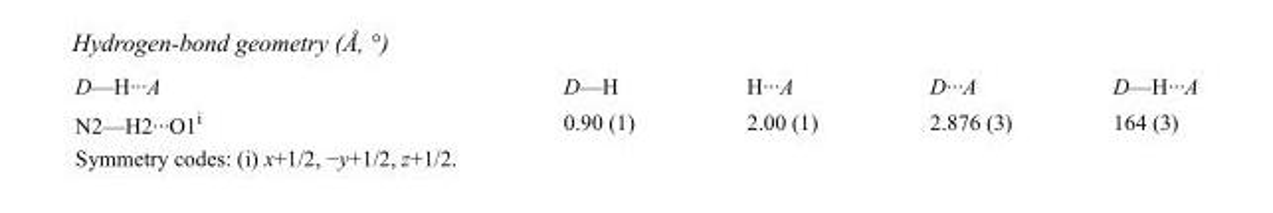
<table><tbody><tr><td>D—H···A</td><td>D—H</td><td>H···A</td><td>D···A</td><td>D—H···A</td></tr><tr><td>N2—H2···O1<sup>i</sup></td><td>0.90 (1)</td><td>2.00 (1)</td><td>2.876 (3)</td><td>164 (3)</td></tr></tbody></table>